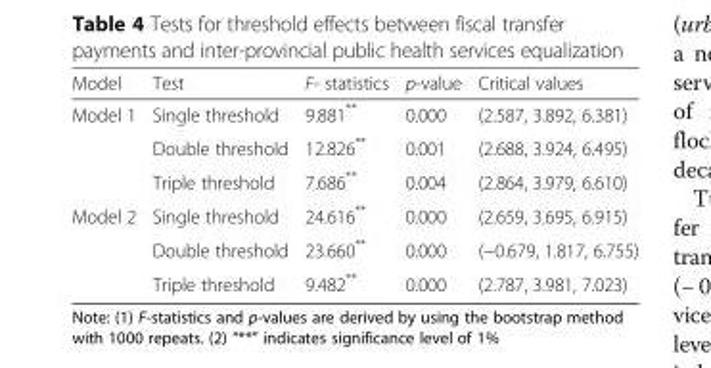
<table><thead><tr><td>Model</td><td>Test</td><td>F- statistics</td><td>p-value</td><td>Critical values</td></tr></thead><tbody><tr><td rowspan="3">Model 1</td><td>Single threshold</td><td>9.881**</td><td>0.000</td><td>(2.587, 3.892, 6.381)</td></tr><tr><td>Double threshold</td><td>12.826**</td><td>0.001</td><td>(2.688, 3.924, 6.495)</td></tr><tr><td>Triple threshold</td><td>7.686**</td><td>0.004</td><td>(2.864, 3.979, 6.610)</td></tr><tr><td rowspan="3">Model 2</td><td>Single threshold</td><td>24.616**</td><td>0.000</td><td>(2.659, 3.695, 6.915)</td></tr><tr><td>Double threshold</td><td>23.660**</td><td>0.000</td><td>(−0.679, 1.817, 6.755)</td></tr><tr><td>Triple threshold</td><td>9.482**</td><td>0.000</td><td>(2.787, 3.981, 7.023)</td></tr></tbody></table>